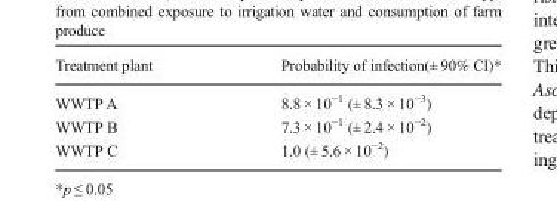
<table><thead><tr><td>Treatment plant</td><td>Probability of infection(± 90% CI)*</td></tr></thead><tbody><tr><td>WWTP A</td><td>8.8 × 10<sup>−1</sup> (± 8.3 × 10<sup>−3</sup>)</td></tr><tr><td>WWTP B</td><td>7.3 × 10<sup>−1</sup> (± 2.4 × 10<sup>−2</sup>)</td></tr><tr><td>WWTP C</td><td>1.0 (± 5.6 × 10<sup>−2</sup>)</td></tr></tbody></table>